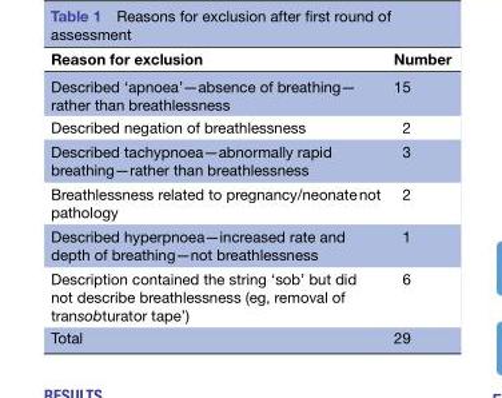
<table><thead><tr><td>Reason for exclusion</td><td>Number</td></tr></thead><tbody><tr><td>Described ‘apnoea’—absence of breathing— rather than breathlessness</td><td>15</td></tr><tr><td>Described negation of breathlessness</td><td>2</td></tr><tr><td>Described tachypnoea—abnormally rapid breathing—rather than breathlessness</td><td>3</td></tr><tr><td>Breathlessness related to pregnancy/neonate not pathology</td><td>2</td></tr><tr><td>Described hyperpnoea—increased rate and depth of breathing—not breathlessness</td><td>1</td></tr><tr><td>Description contained the string ‘sob’ but did not describe breathlessness (eg, removal of transobturator tape’)</td><td>6</td></tr><tr><td>Total</td><td>29</td></tr></tbody></table>